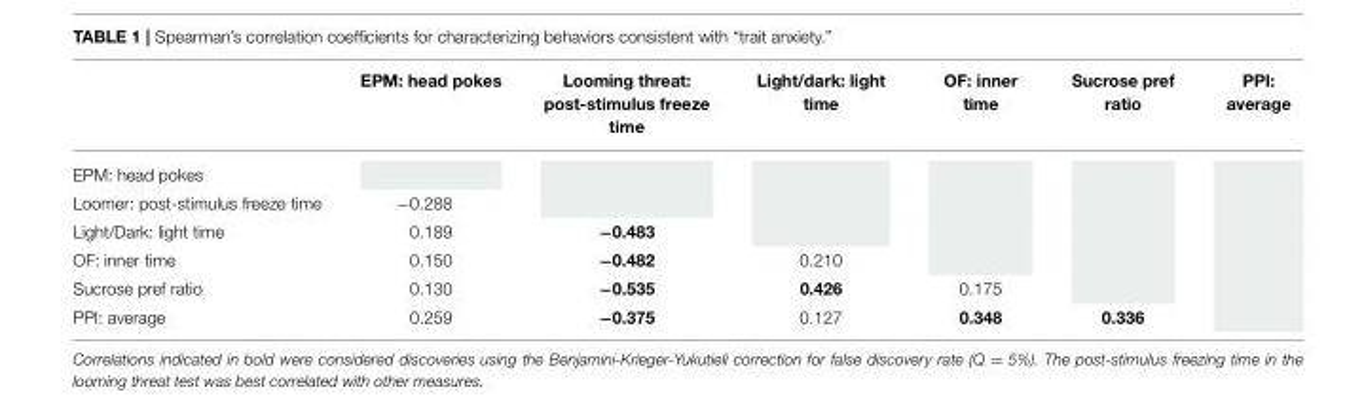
<table><thead><tr><td></td><td>EPM: head pokes</td><td>Looming threat: post-stimulus freeze time</td><td>Light/dark: light time</td><td>OF: inner time</td><td>Sucrose pref ratio</td><td>PPI: average</td></tr></thead><tbody><tr><td colspan="7">EPM: head pokes</td></tr><tr><td>Loomer: post-stimulus freeze time</td><td>−0.288</td><td></td><td></td><td></td><td></td><td></td></tr><tr><td>Light/Dark: light time</td><td>0.189</td><td>−0.483</td><td></td><td></td><td></td><td></td></tr><tr><td>OF: inner time</td><td>0.150</td><td>−0.482</td><td>0.210</td><td></td><td></td><td></td></tr><tr><td>Sucrose pref ratio</td><td>0.130</td><td>−0.535</td><td>0.426</td><td>0.175</td><td></td><td></td></tr><tr><td>PPI: average</td><td>0.259</td><td>−0.375</td><td>0.127</td><td>0.348</td><td>0.336</td><td></td></tr></tbody></table>